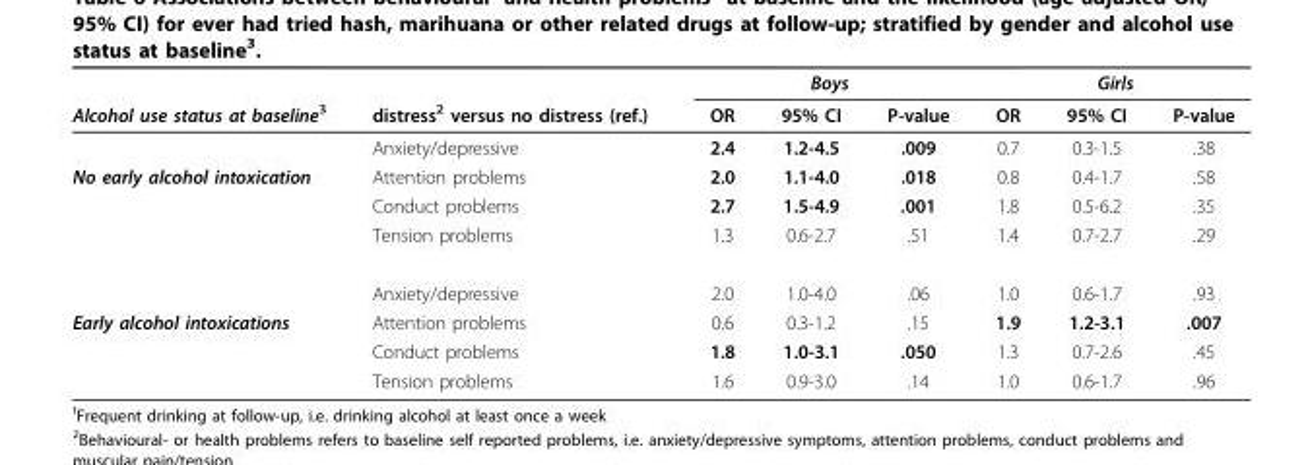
<table><thead><tr><td rowspan="2">Alcohol use status at baseline<sup>3</sup></td><td rowspan="2">distress<sup>2</sup> versus no distress (ref.)</td><td colspan="3">Boys</td><td colspan="3">Girls</td></tr><tr><td>OR</td><td>95% CI</td><td>P-value</td><td>OR</td><td>95% CI</td><td>P-value</td></tr></thead><tbody><tr><td></td><td>Anxiety/depressive</td><td>2.4</td><td>1.2-4.5</td><td>.009</td><td>0.7</td><td>0.3-1.5</td><td>.38</td></tr><tr><td rowspan="4">No early alcohol intoxication</td><td>Attention problems</td><td>2.0</td><td>1.1-4.0</td><td>.018</td><td>0.8</td><td>0.4-1.7</td><td>.58</td></tr><tr><td>Conduct problems</td><td>2.7</td><td>1.5-4.9</td><td>.001</td><td>1.8</td><td>0.5-6.2</td><td>.35</td></tr><tr><td>Tension problems</td><td>1.3</td><td>0.6-2.7</td><td>.51</td><td>1.4</td><td>0.7-2.7</td><td>.29</td></tr><tr><td>Anxiety/depressive</td><td>2.0</td><td>1.0-4.0</td><td>.06</td><td>1.0</td><td>0.6-1.7</td><td>.93</td></tr><tr><td rowspan="3">Early alcohol intoxications</td><td>Attention problems</td><td>0.6</td><td>0.3-1.2</td><td>.15</td><td>1.9</td><td>1.2-3.1</td><td>.007</td></tr><tr><td>Conduct problems</td><td>1.8</td><td>1.0-3.1</td><td>.050</td><td>1.3</td><td>0.7-2.6</td><td>.45</td></tr><tr><td>Tension problems</td><td>1.6</td><td>0.9-3.0</td><td>.14</td><td>1.0</td><td>0.6-1.7</td><td>.96</td></tr></tbody></table>